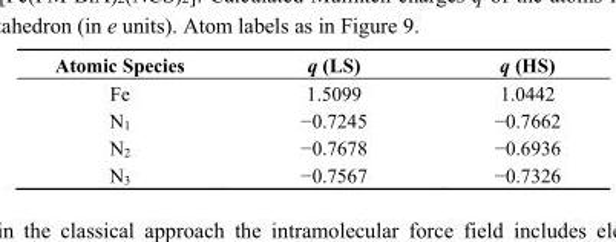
<table><thead><tr><td>Atomic Species</td><td>q (LS)</td><td>q (HS)</td></tr></thead><tbody><tr><td>Fe</td><td>1.5099</td><td>1.0442</td></tr><tr><td>N<sub>1</sub></td><td>−0.7245</td><td>−0.7662</td></tr><tr><td>N<sub>2</sub></td><td>−0.7678</td><td>−0.6936</td></tr><tr><td>N<sub>3</sub></td><td>−0.7567</td><td>−0.7326</td></tr></tbody></table>